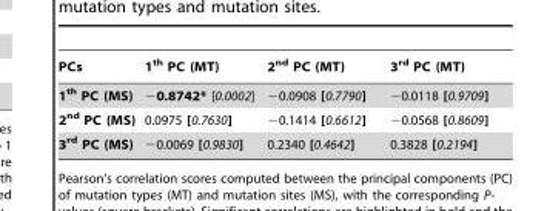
<table><thead><tr><td>PCs</td><td>1<sup>th</sup> PC (MT)</td><td>2<sup>nd</sup> PC (MT)</td><td>3<sup>rd</sup> PC (MT)</td></tr></thead><tbody><tr><td>1<sup>th</sup> PC (MS)</td><td>−0.8742* [0.0002]</td><td>−0.0908 [0.7790]</td><td>−0.0118 [0.9709]</td></tr><tr><td>2<sup>nd</sup> PC (MS)</td><td>0.0975 [0.7630]</td><td>−0.1414 [0.6612]</td><td>−0.0568 [0.8609]</td></tr><tr><td>3<sup>rd</sup> PC (MS)</td><td>−0.0069 [0.9830]</td><td>0.2340 [0.4642]</td><td>0.3828 [0.2194]</td></tr></tbody></table>